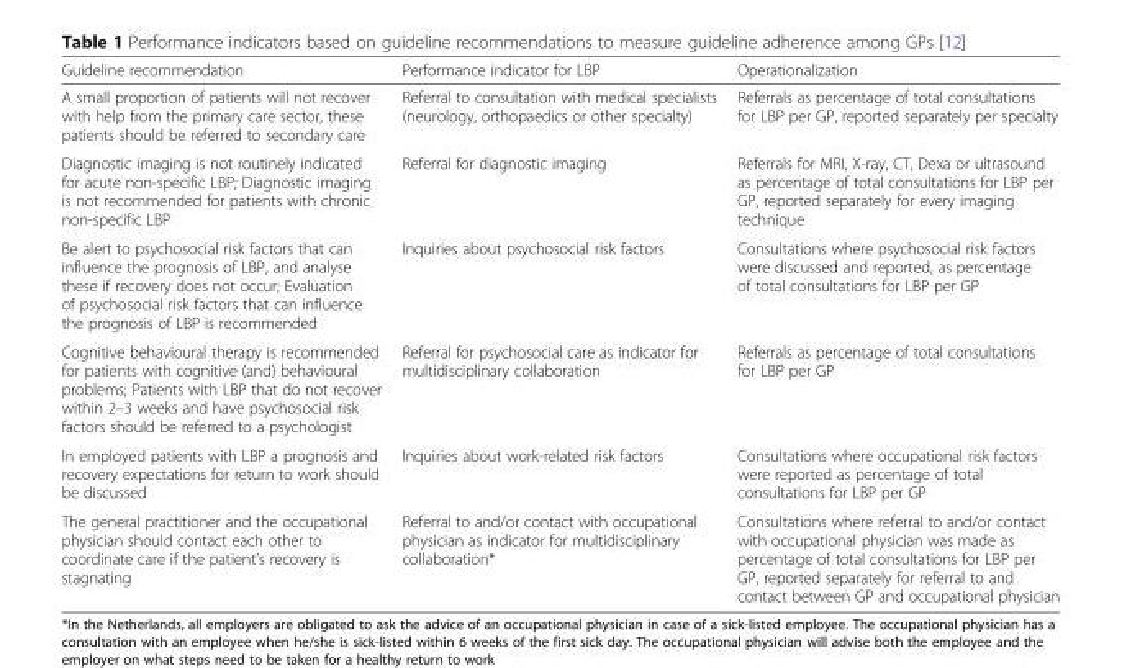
<table><thead><tr><td>Guideline recommendation</td><td>Performance indicator for LBP</td><td>Operationalization</td></tr></thead><tbody><tr><td>A small proportion of patients will not recover with help from the primary care sector, these patients should be referred to secondary care</td><td>Referral to consultation with medical specialists (neurology, orthopaedics or other specialty)</td><td>Referrals as percentage of total consultations for LBP per GP, reported separately per specialty</td></tr><tr><td>Diagnostic imaging is not routinely indicated for acute non-specific LBP; Diagnostic imaging is not recommended for patients with chronic non-specific LBP</td><td>Referral for diagnostic imaging</td><td>Referrals for MRI, X-ray, CT, Dexa or ultrasound as percentage of total consultations for LBP per GP, reported separately for every imaging technique</td></tr><tr><td>Be alert to psychosocial risk factors that can influence the prognosis of LBP, and analyse these if recovery does not occur; Evaluation of psychosocial risk factors that can influence the prognosis of LBP is recommended</td><td>Inquiries about psychosocial risk factors</td><td>Consultations where psychosocial risk factors were discussed and reported, as percentage of total consultations for LBP per GP</td></tr><tr><td>Cognitive behavioural therapy is recommended for patients with cognitive (and) behavioural problems; Patients with LBP that do not recover within 2–3 weeks and have psychosocial risk factors should be referred to a psychologist</td><td>Referral for psychosocial care as indicator for multidisciplinary collaboration</td><td>Referrals as percentage of total consultations for LBP per GP</td></tr><tr><td>In employed patients with LBP a prognosis and recovery expectations for return to work should be discussed</td><td>Inquiries about work-related risk factors</td><td>Consultations where occupational risk factors were reported as percentage of total consultations for LBP per GP</td></tr><tr><td>The general practitioner and the occupational physician should contact each other to coordinate care if the patient’s recovery is stagnating</td><td>Referral to and/or contact with occupational physician as indicator for multidisciplinary collaboration*</td><td>Consultations where referral to and/or contact with occupational physician was made as percentage of total consultations for LBP per GP, reported separately for referral to and contact between GP and occupational physician</td></tr></tbody></table>